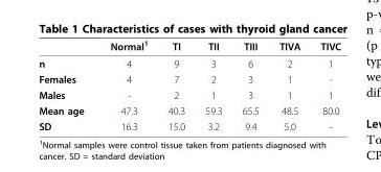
<table><thead><tr><td></td><td>Normal<sup>1</sup></td><td>TI</td><td>TII</td><td>TIII</td><td>TIVA</td><td>TIVC</td></tr></thead><tbody><tr><td>n</td><td>4</td><td>9</td><td>3</td><td>6</td><td>2</td><td>1</td></tr><tr><td>Females</td><td>4</td><td>7</td><td>2</td><td>3</td><td>1</td><td>-</td></tr><tr><td>Males</td><td>-</td><td>2</td><td>1</td><td>3</td><td>1</td><td>1</td></tr><tr><td>Mean age</td><td>47.3</td><td>40.3</td><td>59.3</td><td>65.5</td><td>48.5</td><td>80.0</td></tr><tr><td>SD</td><td>16.3</td><td>15.0</td><td>3.2</td><td>9.4</td><td>5.0</td><td>-</td></tr></tbody></table>